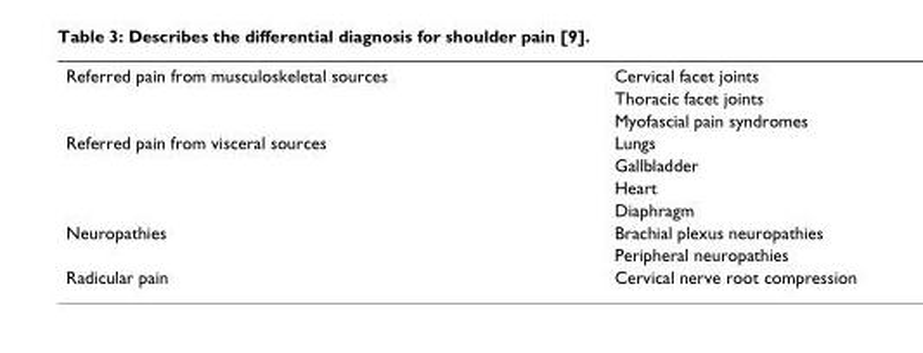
<table><tbody><tr><td rowspan="3">Referred pain from musculoskeletal sources</td><td>Cervical facet joints</td></tr><tr><td>Thoracic facet joints</td></tr><tr><td>Myofascial pain syndromes</td></tr><tr><td rowspan="4">Referred pain from visceral sources</td><td>Lungs</td></tr><tr><td>Gallbladder</td></tr><tr><td>Heart</td></tr><tr><td>Diaphragm</td></tr><tr><td rowspan="2">Neuropathies</td><td>Brachial plexus neuropathies</td></tr><tr><td>Peripheral neuropathies</td></tr><tr><td>Radicular pain</td><td>Cervical nerve root compression</td></tr></tbody></table>